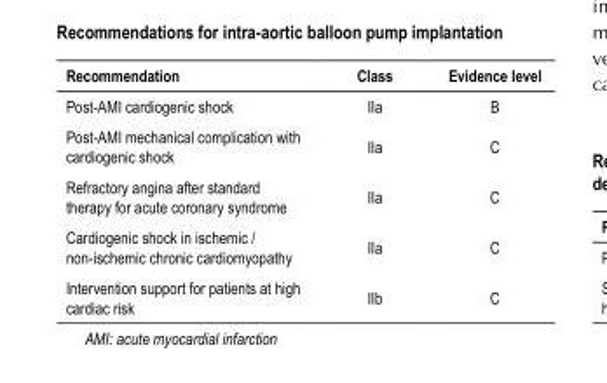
<table><thead><tr><td>Recommendation</td><td>Class</td><td>Evidence level</td></tr></thead><tbody><tr><td>Post‑AMI cardiogenic shock</td><td>IIa</td><td>B</td></tr><tr><td>Post‑AMI mechanical complication with cardiogenic shock</td><td>IIa</td><td>C</td></tr><tr><td>Refractory angina after standard therapy for acute coronary syndrome</td><td>IIa</td><td>C</td></tr><tr><td>Cardiogenic shock in ischemic / non‑ischemic chronic cardiomyopathy</td><td>IIa</td><td>C</td></tr><tr><td>Intervention support for patients at high cardiac risk</td><td>IIb</td><td>C</td></tr></tbody></table>